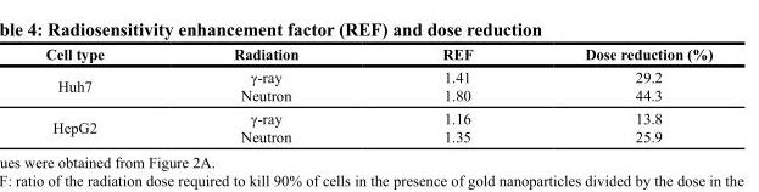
<table><thead><tr><td>Cell type</td><td>Radiation</td><td>REF</td><td>Dose reduction (%)</td></tr></thead><tbody><tr><td rowspan="2">Huh7</td><td>γ-ray</td><td>1.41</td><td>29.2</td></tr><tr><td>Neutron</td><td>1.80</td><td>44.3</td></tr><tr><td rowspan="2">HepG2</td><td>γ-ray</td><td>1.16</td><td>13.8</td></tr><tr><td>Neutron</td><td>1.35</td><td>25.9</td></tr></tbody></table>